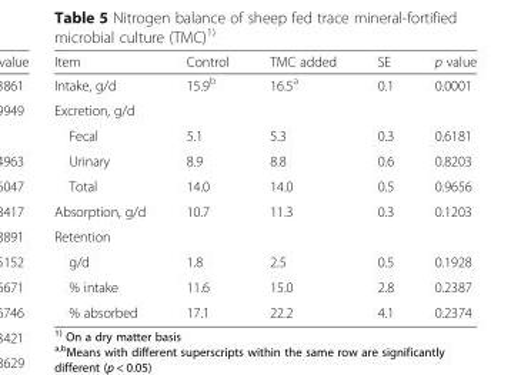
<table><thead><tr><td>Item</td><td>Control</td><td>TMC added</td><td>SE</td><td>p value</td></tr></thead><tbody><tr><td>Intake, g/d</td><td>15.9<sup>b</sup></td><td>16.5<sup>a</sup></td><td>0.1</td><td>0.0001</td></tr><tr><td colspan="5">Excretion, g/d</td></tr><tr><td>Fecal</td><td>5.1</td><td>5.3</td><td>0.3</td><td>0.6181</td></tr><tr><td>Urinary</td><td>8.9</td><td>8.8</td><td>0.6</td><td>0.8203</td></tr><tr><td>Total</td><td>14.0</td><td>14.0</td><td>0.5</td><td>0.9656</td></tr><tr><td>Absorption, g/d</td><td>10.7</td><td>11.3</td><td>0.3</td><td>0.1203</td></tr><tr><td colspan="5">Retention</td></tr><tr><td>g/d</td><td>1.8</td><td>2.5</td><td>0.5</td><td>0.1928</td></tr><tr><td>% intake</td><td>11.6</td><td>15.0</td><td>2.8</td><td>0.2387</td></tr><tr><td>% absorbed</td><td>17.1</td><td>22.2</td><td>4.1</td><td>0.2374</td></tr></tbody></table>